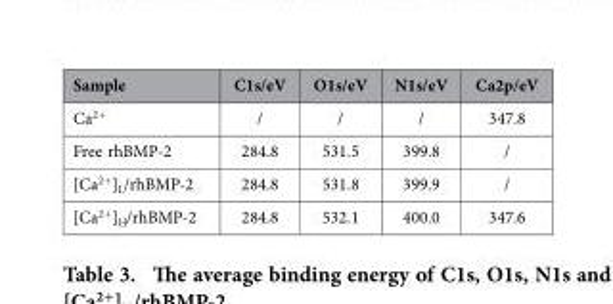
<table><thead><tr><td>Sample</td><td>C1s/eV</td><td>O1s/eV</td><td>N1s/eV</td><td>Ca2p/eV</td></tr></thead><tbody><tr><td>Ca<sup>2+</sup></td><td>/</td><td>/</td><td>/</td><td>347.8</td></tr><tr><td>Free rhBMP-2</td><td>284.8</td><td>531.5</td><td>399.8</td><td>/</td></tr><tr><td>[Ca<sup>2+</sup>]<sub>L</sub>/rhBMP-2</td><td>284.8</td><td>531.8</td><td>399.9</td><td>/</td></tr><tr><td>[Ca<sup>2+</sup>]<sub>H</sub>/rhBMP-2</td><td>284.8</td><td>532.1</td><td>400.0</td><td>347.6</td></tr></tbody></table>